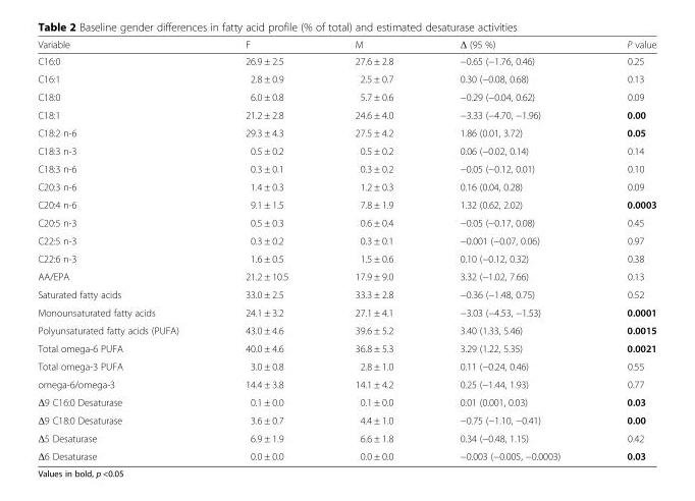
<table><thead><tr><td>Variable</td><td>F</td><td>M</td><td>Δ (95 %)</td><td>P value</td></tr></thead><tbody><tr><td>C16:0</td><td>26.9 ± 2.5</td><td>27.6 ± 2.8</td><td>−0.65 (−1.76, 0.46)</td><td>0.25</td></tr><tr><td>C16:1</td><td>2.8 ± 0.9</td><td>2.5 ± 0.7</td><td>0.30 (−0.08, 0.68)</td><td>0.13</td></tr><tr><td>C18:0</td><td>6.0 ± 0.8</td><td>5.7 ± 0.6</td><td>−0.29 (−0.04, 0.62)</td><td>0.09</td></tr><tr><td>C18:1</td><td>21.2 ± 2.8</td><td>24.6 ± 4.0</td><td>−3.33 (−4.70, −1.96)</td><td>0.00</td></tr><tr><td>C18:2 n-6</td><td>29.3 ± 4.3</td><td>27.5 ± 4.2</td><td>1.86 (0.01, 3.72)</td><td>0.05</td></tr><tr><td>C18:3 n-3</td><td>0.5 ± 0.2</td><td>0.5 ± 0.2</td><td>0.06 (−0.02, 0.14)</td><td>0.14</td></tr><tr><td>C18:3 n-6</td><td>0.3 ± 0.1</td><td>0.3 ± 0.2</td><td>−0.05 (−0.12, 0.01)</td><td>0.10</td></tr><tr><td>C20:3 n-6</td><td>1.4 ± 0.3</td><td>1.2 ± 0.3</td><td>0.16 (0.04, 0.28)</td><td>0.09</td></tr><tr><td>C20:4 n-6</td><td>9.1 ± 1.5</td><td>7.8 ± 1.9</td><td>1.32 (0.62, 2.02)</td><td>0.0003</td></tr><tr><td>C20:5 n-3</td><td>0.5 ± 0.3</td><td>0.6 ± 0.4</td><td>−0.05 (−0.17, 0.08)</td><td>0.45</td></tr><tr><td>C22:5 n-3</td><td>0.3 ± 0.2</td><td>0.3 ± 0.1</td><td>−0.001 (−0.07, 0.06)</td><td>0.97</td></tr><tr><td>C22:6 n-3</td><td>1.6 ± 0.5</td><td>1.5 ± 0.6</td><td>0.10 (−0.12, 0.32)</td><td>0.38</td></tr><tr><td>AA/EPA</td><td>21.2 ± 10.5</td><td>17.9 ± 9.0</td><td>3.32 (−1.02, 7.66)</td><td>0.13</td></tr><tr><td>Saturated fatty acids</td><td>33.0 ± 2.5</td><td>33.3 ± 2.8</td><td>−0.36 (−1.48, 0.75)</td><td>0.52</td></tr><tr><td>Monounsaturated fatty acids</td><td>24.1 ± 3.2</td><td>27.1 ± 4.1</td><td>−3.03 (−4.53, −1.53)</td><td>0.0001</td></tr><tr><td>Polyunsaturated fatty acids (PUFA)</td><td>43.0 ± 4.6</td><td>39.6 ± 5.2</td><td>3.40 (1.33, 5.46)</td><td>0.0015</td></tr><tr><td>Total omega-6 PUFA</td><td>40.0 ± 4.6</td><td>36.8 ± 5.3</td><td>3.29 (1.22, 5.35)</td><td>0.0021</td></tr><tr><td>Total omega-3 PUFA</td><td>3.0 ± 0.8</td><td>2.8 ± 1.0</td><td>0.11 (−0.24, 0.46)</td><td>0.55</td></tr><tr><td>omega-6/omega-3</td><td>14.4 ± 3.8</td><td>14.1 ± 4.2</td><td>0.25 (−1.44, 1.93)</td><td>0.77</td></tr><tr><td>Δ9 C16:0 Desaturase</td><td>0.1 ± 0.0</td><td>0.1 ± 0.0</td><td>0.01 (0.001, 0.03)</td><td>0.03</td></tr><tr><td>Δ9 C18:0 Desaturase</td><td>3.6 ± 0.7</td><td>4.4 ± 1.0</td><td>−0.75 (−1.10, −0.41)</td><td>0.00</td></tr><tr><td>Δ5 Desaturase</td><td>6.9 ± 1.9</td><td>6.6 ± 1.8</td><td>0.34 (−0.48, 1.15)</td><td>0.42</td></tr><tr><td>Δ6 Desaturase</td><td>0.0 ± 0.0</td><td>0.0 ± 0.0</td><td>−0.003 (−0.005, −0.0003)</td><td>0.03</td></tr></tbody></table>